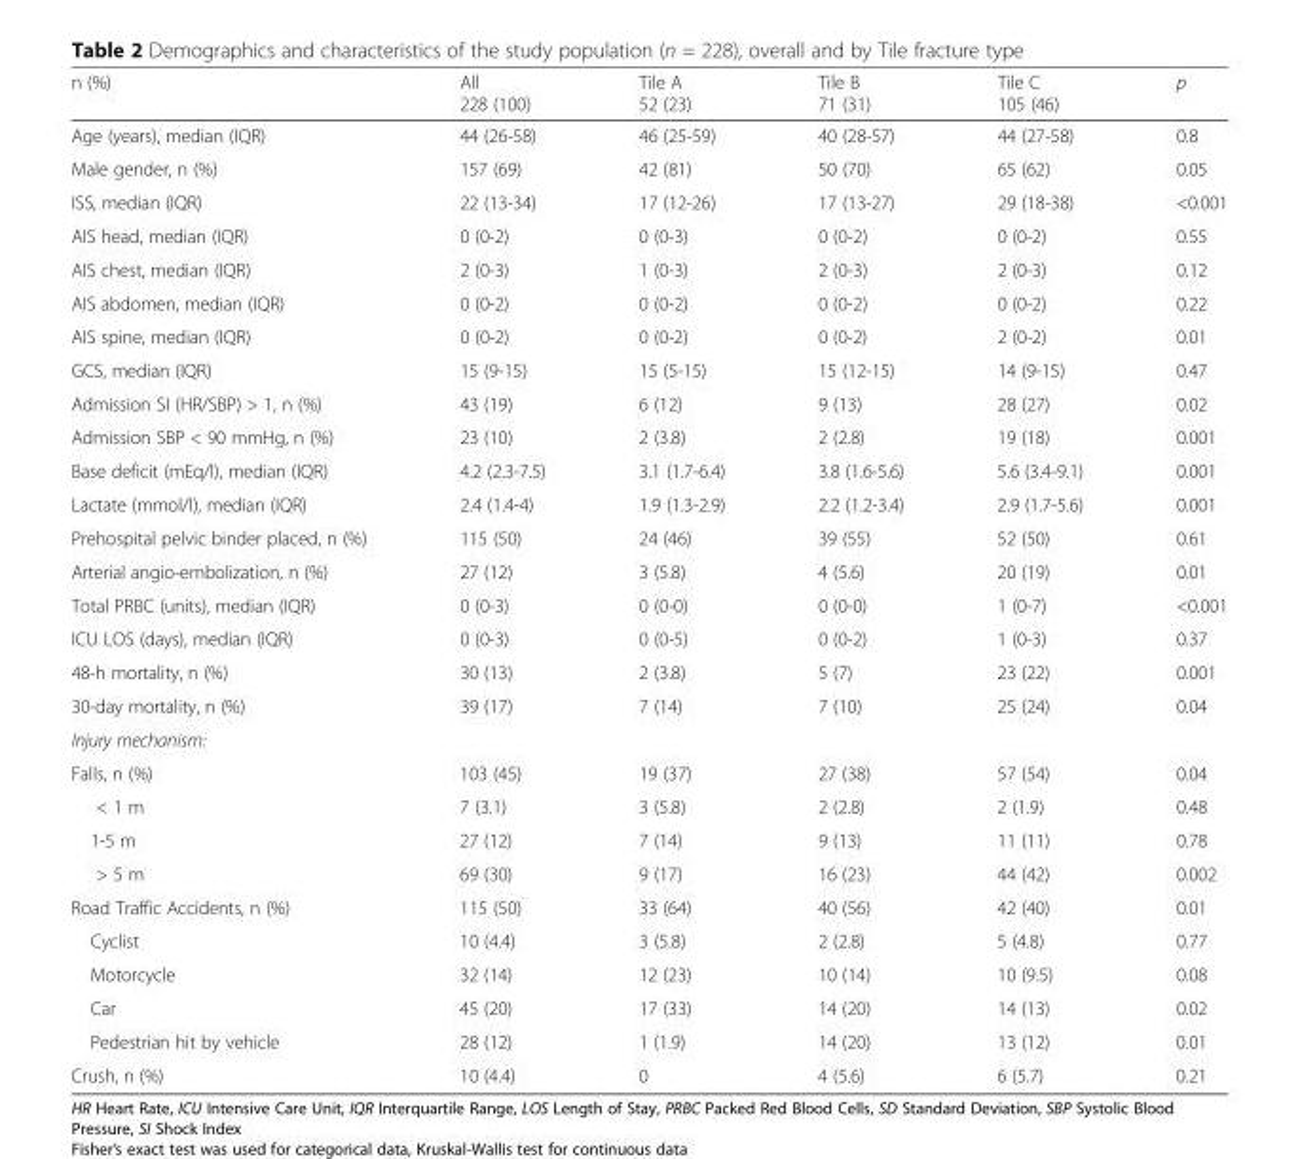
<table><thead><tr><td>n (%)</td><td>All 228 (100)</td><td>Tile A 52 (23)</td><td>Tile B 71 (31)</td><td>Tile C 105 (46)</td><td>p</td></tr></thead><tbody><tr><td>Age (years), median (IQR)</td><td>44 (26-58)</td><td>46 (25-59)</td><td>40 (28-57)</td><td>44 (27-58)</td><td>0.8</td></tr><tr><td>Male gender, n (%)</td><td>157 (69)</td><td>42 (81)</td><td>50 (70)</td><td>65 (62)</td><td>0.05</td></tr><tr><td>ISS, median (IQR)</td><td>22 (13-34)</td><td>17 (12-26)</td><td>17 (13-27)</td><td>29 (18-38)</td><td>&lt;0.001</td></tr><tr><td>AIS head, median (IQR)</td><td>0 (0-2)</td><td>0 (0-3)</td><td>0 (0-2)</td><td>0 (0-2)</td><td>0.55</td></tr><tr><td>AIS chest, median (IQR)</td><td>2 (0-3)</td><td>1 (0-3)</td><td>2 (0-3)</td><td>2 (0-3)</td><td>0.12</td></tr><tr><td>AIS abdomen, median (IQR)</td><td>0 (0-2)</td><td>0 (0-2)</td><td>0 (0-2)</td><td>0 (0-2)</td><td>0.22</td></tr><tr><td>AIS spine, median (IQR)</td><td>0 (0-2)</td><td>0 (0-2)</td><td>0 (0-2)</td><td>2 (0-2)</td><td>0.01</td></tr><tr><td>GCS, median (IQR)</td><td>15 (9-15)</td><td>15 (5-15)</td><td>15 (12-15)</td><td>14 (9-15)</td><td>0.47</td></tr><tr><td>Admission SI (HR/SBP) &gt; 1, n (%)</td><td>43 (19)</td><td>6 (12)</td><td>9 (13)</td><td>28 (27)</td><td>0.02</td></tr><tr><td>Admission SBP &lt; 90 mmHg, n (%)</td><td>23 (10)</td><td>2 (3.8)</td><td>2 (2.8)</td><td>19 (18)</td><td>0.001</td></tr><tr><td>Base deficit (mEq/l), median (IQR)</td><td>4.2 (2.3-7.5)</td><td>3.1 (1.7-6.4)</td><td>3.8 (1.6-5.6)</td><td>5.6 (3.4-9.1)</td><td>0.001</td></tr><tr><td>Lactate (mmol/l), median (IQR)</td><td>2.4 (1.4-4)</td><td>1.9 (1.3-2.9)</td><td>2.2 (1.2-3.4)</td><td>2.9 (1.7-5.6)</td><td>0.001</td></tr><tr><td>Prehospital pelvic binder placed, n (%)</td><td>115 (50)</td><td>24 (46)</td><td>39 (55)</td><td>52 (50)</td><td>0.61</td></tr><tr><td>Arterial angio-embolization, n (%)</td><td>27 (12)</td><td>3 (5.8)</td><td>4 (5.6)</td><td>20 (19)</td><td>0.01</td></tr><tr><td>Total PRBC (units), median (IQR)</td><td>0 (0-3)</td><td>0 (0-0)</td><td>0 (0-0)</td><td>1 (0-7)</td><td>&lt;0.001</td></tr><tr><td>ICU LOS (days), median (IQR)</td><td>0 (0-3)</td><td>0 (0-5)</td><td>0 (0-2)</td><td>1 (0-3)</td><td>0.37</td></tr><tr><td>48-h mortality, n (%)</td><td>30 (13)</td><td>2 (3.8)</td><td>5 (7)</td><td>23 (22)</td><td>0.001</td></tr><tr><td>30-day mortality, n (%)</td><td>39 (17)</td><td>7 (14)</td><td>7 (10)</td><td>25 (24)</td><td>0.04</td></tr><tr><td colspan="6">Injury mechanism:</td></tr><tr><td>Falls, n (%)</td><td>103 (45)</td><td>19 (37)</td><td>27 (38)</td><td>57 (54)</td><td>0.04</td></tr><tr><td>&lt; 1 m</td><td>7 (3.1)</td><td>3 (5.8)</td><td>2 (2.8)</td><td>2 (1.9)</td><td>0.48</td></tr><tr><td>1-5 m</td><td>27 (12)</td><td>7 (14)</td><td>9 (13)</td><td>11 (11)</td><td>0.78</td></tr><tr><td>&gt; 5 m</td><td>69 (30)</td><td>9 (17)</td><td>16 (23)</td><td>44 (42)</td><td>0.002</td></tr><tr><td>Road Traffic Accidents, n (%)</td><td>115 (50)</td><td>33 (64)</td><td>40 (56)</td><td>42 (40)</td><td>0.01</td></tr><tr><td>Cyclist</td><td>10 (4.4)</td><td>3 (5.8)</td><td>2 (2.8)</td><td>5 (4.8)</td><td>0.77</td></tr><tr><td>Motorcycle</td><td>32 (14)</td><td>12 (23)</td><td>10 (14)</td><td>10 (9.5)</td><td>0.08</td></tr><tr><td>Car</td><td>45 (20)</td><td>17 (33)</td><td>14 (20)</td><td>14 (13)</td><td>0.02</td></tr><tr><td>Pedestrian hit by vehicle</td><td>28 (12)</td><td>1 (1.9)</td><td>14 (20)</td><td>13 (12)</td><td>0.01</td></tr><tr><td>Crush, n (%)</td><td>10 (4.4)</td><td>0</td><td>4 (5.6)</td><td>6 (5.7)</td><td>0.21</td></tr></tbody></table>